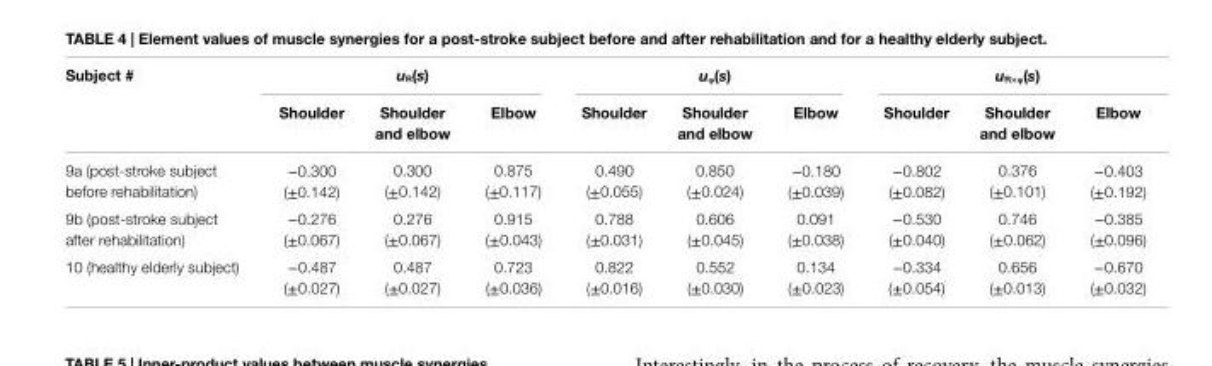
<table><thead><tr><td rowspan="2">subject #</td><td colspan="3">u<sub>r</sub>(s)</td><td colspan="3">u<sub>φ</sub>(s)</td><td colspan="3">u<sub>r×φ</sub>(s)</td></tr><tr><td>shoulder</td><td>shoulder and elbow</td><td>elbow</td><td>shoulder</td><td>shoulder and elbow</td><td>elbow</td><td>shoulder</td><td>shoulder and elbow</td><td>elbow</td></tr></thead><tbody><tr><td>9a (post-stroke subject before rehabilitation)</td><td>−0.300 (±0.142)</td><td>0.300 (±0.142)</td><td>0.875 (±0.117)</td><td>0.490 (±0.055)</td><td>0.850 (±0.024)</td><td>−0.180 (±0.039)</td><td>−0.802 (±0.082)</td><td>0.376 (±0.101)</td><td>−0.403 (±0.192)</td></tr><tr><td>9b (post-stroke subject after rehabilitation)</td><td>−0.276 (±0.067)</td><td>0.276 (±0.067)</td><td>0.915 (±0.043)</td><td>0.788 (±0.031)</td><td>0.606 (±0.045)</td><td>0.091 (±0.038)</td><td>−0.530 (±0.040)</td><td>0.746 (±0.062)</td><td>−0.385 (±0.096)</td></tr><tr><td>10 (healthy elderly subject)</td><td>−0.487 (±0.027)</td><td>0.487 (±0.027)</td><td>0.723 (±0.036)</td><td>0.822 (±0.016)</td><td>0.552 (±0.030)</td><td>0.134 (±0.023)</td><td>−0.334 (±0.054)</td><td>0.656 (±0.013)</td><td>−0.670 (±0.032)</td></tr></tbody></table>